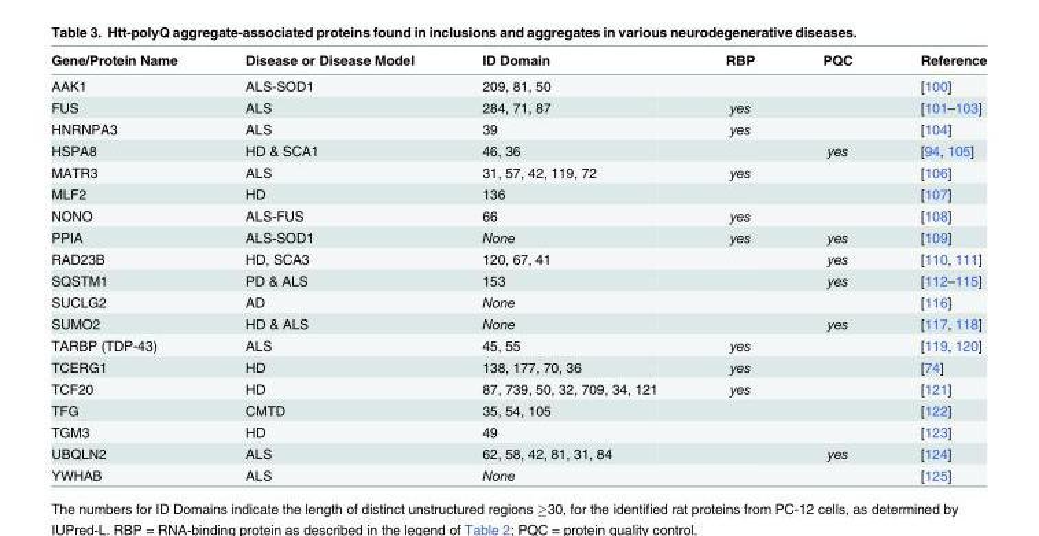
<table><thead><tr><td>Gene/Protein Name</td><td>Disease or Disease Model</td><td>ID Domain</td><td>RBP</td><td>PQC</td><td>Reference</td></tr></thead><tbody><tr><td>AAK1</td><td>ALS-SOD1</td><td>209, 81, 50</td><td></td><td></td><td>[100]</td></tr><tr><td>FUS</td><td>ALS</td><td>284, 71, 87</td><td>yes</td><td></td><td>[101–103]</td></tr><tr><td>HNRNPA3</td><td>ALS</td><td>39</td><td>yes</td><td></td><td>[104]</td></tr><tr><td>HSPA8</td><td>HD &amp; SCA1</td><td>46, 36</td><td></td><td>yes</td><td>[94, 105]</td></tr><tr><td>MATR3</td><td>ALS</td><td>31, 57, 42, 119, 72</td><td>yes</td><td></td><td>[106]</td></tr><tr><td>MLF2</td><td>HD</td><td>136</td><td></td><td></td><td>[107]</td></tr><tr><td>NONO</td><td>ALS-FUS</td><td>66</td><td>yes</td><td></td><td>[108]</td></tr><tr><td>PPIA</td><td>ALS-SOD1</td><td>None</td><td>yes</td><td>yes</td><td>[109]</td></tr><tr><td>RAD23B</td><td>HD, SCA3</td><td>120, 67, 41</td><td></td><td>yes</td><td>[110, 111]</td></tr><tr><td>SQSTM1</td><td>PD &amp; ALS</td><td>153</td><td></td><td>yes</td><td>[112–115]</td></tr><tr><td>SUCLG2</td><td>AD</td><td>None</td><td></td><td></td><td>[116]</td></tr><tr><td>SUMO2</td><td>HD &amp; ALS</td><td>None</td><td></td><td>yes</td><td>[117, 118]</td></tr><tr><td>TARBP (TDP-43)</td><td>ALS</td><td>45, 55</td><td>yes</td><td></td><td>[119, 120]</td></tr><tr><td>TCERG1</td><td>HD</td><td>138, 177, 70, 36</td><td>yes</td><td></td><td>[74]</td></tr><tr><td>TCF20</td><td>HD</td><td>87, 739, 50, 32, 709, 34, 121</td><td>yes</td><td></td><td>[121]</td></tr><tr><td>TFG</td><td>CMTD</td><td>35, 54, 105</td><td></td><td></td><td>[122]</td></tr><tr><td>TGM3</td><td>HD</td><td>49</td><td></td><td></td><td>[123]</td></tr><tr><td>UBQLN2</td><td>ALS</td><td>62, 58, 42, 81, 31, 84</td><td></td><td>yes</td><td>[124]</td></tr><tr><td>YWHAB</td><td>ALS</td><td>None</td><td></td><td></td><td>[125]</td></tr></tbody></table>